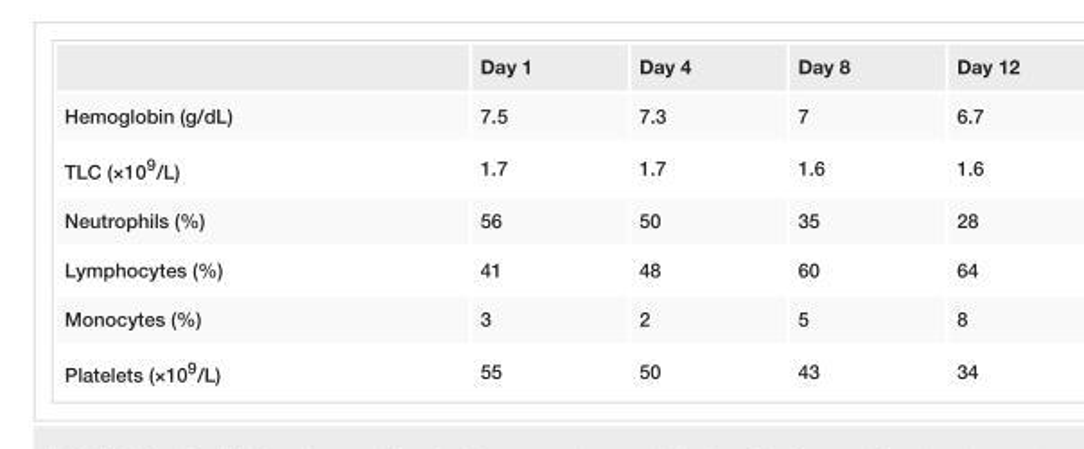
<table><thead><tr><td></td><td>Day 1</td><td>Day 4</td><td>Day 8</td><td>Day 12</td></tr></thead><tbody><tr><td>Hemoglobin (g/dL)</td><td>7.5</td><td>7.3</td><td>7</td><td>6.7</td></tr><tr><td>TLC (×10<sup>9</sup>/L)</td><td>1.7</td><td>1.7</td><td>1.6</td><td>1.6</td></tr><tr><td>Neutrophils (%)</td><td>56</td><td>50</td><td>35</td><td>28</td></tr><tr><td>Lymphocytes (%)</td><td>41</td><td>48</td><td>60</td><td>64</td></tr><tr><td>Monocytes (%)</td><td>3</td><td>2</td><td>5</td><td>8</td></tr><tr><td>Platelets (×10<sup>9</sup>/L)</td><td>55</td><td>50</td><td>43</td><td>34</td></tr></tbody></table>